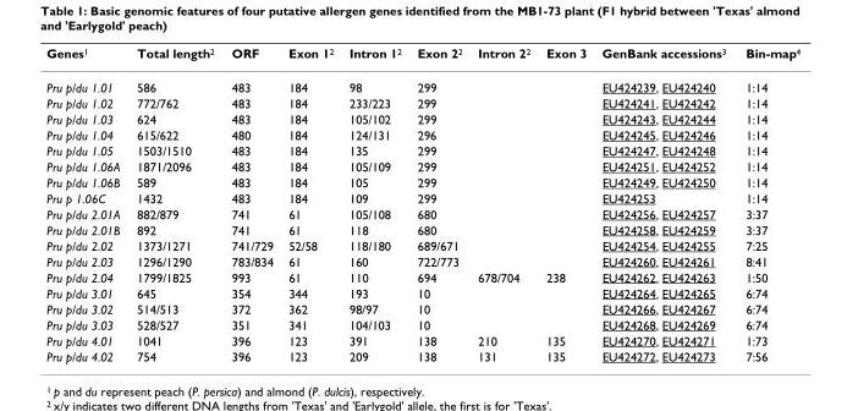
<table><thead><tr><td>Genes<sup>1</sup></td><td>Total length<sup>2</sup></td><td>ORF</td><td>Exon 1<sup>2</sup></td><td>Intron 1<sup>2</sup></td><td>Exon 2<sup>2</sup></td><td>Intron 2<sup>2</sup></td><td>Exon 3</td><td>GenBank accessions<sup>3</sup></td><td>Bin-map<sup>4</sup></td></tr></thead><tbody><tr><td>Pru p/du 1.01</td><td>586</td><td>483</td><td>184</td><td>98</td><td>299</td><td></td><td></td><td>EU424239, EU424240</td><td>1:14</td></tr><tr><td>Pru p/du 1.02</td><td>772/762</td><td>483</td><td>184</td><td>233/223</td><td>299</td><td></td><td></td><td>EU424241, EU424242</td><td>1:14</td></tr><tr><td>Pru p/du 1.03</td><td>624</td><td>483</td><td>184</td><td>105/102</td><td>299</td><td></td><td></td><td>EU424243, EU424244</td><td>1:14</td></tr><tr><td>Pru p/du 1.04</td><td>615/622</td><td>480</td><td>184</td><td>124/131</td><td>296</td><td></td><td></td><td>EU424245, EU424246</td><td>1:14</td></tr><tr><td>Pru p/du 1.05</td><td>1503/1510</td><td>483</td><td>184</td><td>135</td><td>299</td><td></td><td></td><td>EU424247, EU424248</td><td>1:14</td></tr><tr><td>Pru p/du 1.06A</td><td>1871/2096</td><td>483</td><td>184</td><td>105/109</td><td>299</td><td></td><td></td><td>EU424251, EU424252</td><td>1:14</td></tr><tr><td>Pru p/du 1.06B</td><td>589</td><td>483</td><td>184</td><td>105</td><td>299</td><td></td><td></td><td>EU424249, EU424250</td><td>1:14</td></tr><tr><td>Pru p 1.06C</td><td>1432</td><td>483</td><td>184</td><td>109</td><td>299</td><td></td><td></td><td>EU424253</td><td>1:14</td></tr><tr><td>Pru p/du 2.01A</td><td>882/879</td><td>741</td><td>61</td><td>105/108</td><td>680</td><td></td><td></td><td>EU424256, EU424257</td><td>3:37</td></tr><tr><td>Pru p/du 2.01B</td><td>892</td><td>741</td><td>61</td><td>118</td><td>680</td><td></td><td></td><td>EU424258, EU424259</td><td>3:37</td></tr><tr><td>Pru p/du 2.02</td><td>1373/1271</td><td>741/729</td><td>52/58</td><td>118/180</td><td>689/671</td><td></td><td></td><td>EU424254, EU424255</td><td>7:25</td></tr><tr><td>Pru p/du 2.03</td><td>1296/1290</td><td>783/834</td><td>61</td><td>160</td><td>722/773</td><td></td><td></td><td>EU424260, EU424261</td><td>8:41</td></tr><tr><td>Pru p/du 2.04</td><td>1799/1825</td><td>993</td><td>61</td><td>110</td><td>694</td><td>678/704</td><td>238</td><td>EU424262, EU424263</td><td>1:50</td></tr><tr><td>Pru p/du 3.01</td><td>645</td><td>354</td><td>344</td><td>193</td><td>10</td><td></td><td></td><td>EU424264, EU424265</td><td>6:74</td></tr><tr><td>Pru p/du 3.02</td><td>514/513</td><td>372</td><td>362</td><td>98/97</td><td>10</td><td></td><td></td><td>EU424266, EU424267</td><td>6:74</td></tr><tr><td>Pru p/du 3.03</td><td>528/527</td><td>351</td><td>341</td><td>104/103</td><td>10</td><td></td><td></td><td>EU424268, EU424269</td><td>6:74</td></tr><tr><td>Pru p/du 4.01</td><td>1041</td><td>396</td><td>123</td><td>391</td><td>138</td><td>210</td><td>135</td><td>EU424270, EU424271</td><td>1:73</td></tr><tr><td>Pru p/du 4.02</td><td>754</td><td>396</td><td>123</td><td>209</td><td>138</td><td>131</td><td>135</td><td>EU424272, EU424273</td><td>7:56</td></tr></tbody></table>